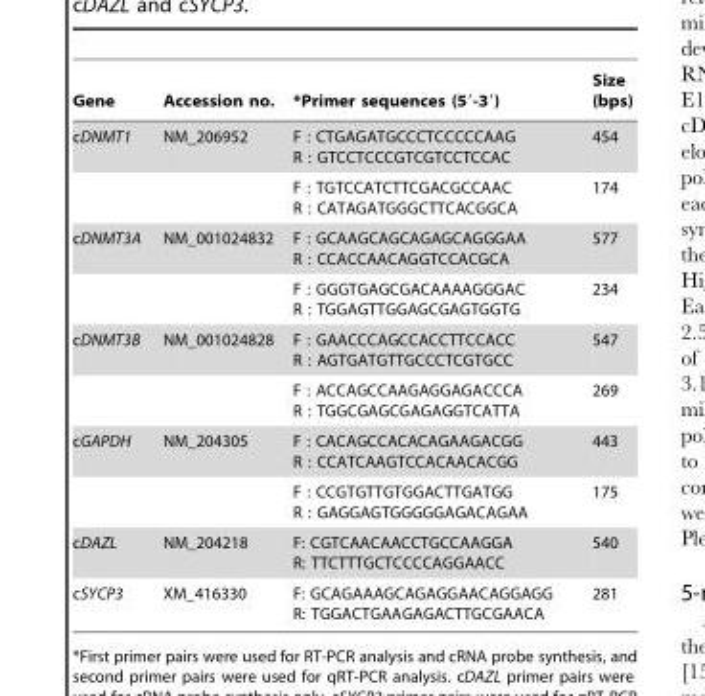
<table><thead><tr><td>Gene</td><td>Accession no.</td><td>*Primer sequences (5′-3′)</td><td>Size (bps)</td></tr></thead><tbody><tr><td rowspan="2">cDNMT1</td><td>NM_206952</td><td>F : CTGAGATGCCCTCCCCCAAG R : GTCCTCCCGTCGTCCTCCAC</td><td>454</td></tr><tr><td></td><td>F : TGTCCATCTTCGACGCCAAC R : CATAGATGGGCTTCACGGCA</td><td>174</td></tr><tr><td rowspan="2">cDNMT3A</td><td>NM_001024832</td><td>F : GCAAGCAGCAGAGCAGGGAA R : CCACCAACAGGTCCACGCA</td><td>577</td></tr><tr><td></td><td>F : GGGTGAGCGACAAAAGGGAC R : TGGAGTTGGAGCGAGTGGTG</td><td>234</td></tr><tr><td rowspan="2">cDNMT3B</td><td>NM_001024828</td><td>F : GAACCCAGCCACCTTCCACC R : AGTGATGTTGCCCTCGTGCC</td><td>547</td></tr><tr><td></td><td>F : ACCAGCCAAGAGGAGACCCA R : TGGCGAGCGAGAGGTCATTA</td><td>269</td></tr><tr><td rowspan="2">cGAPDH</td><td>NM_204305</td><td>F : CACAGCCACACAGAAGACGG R : CCATCAAGTCCACAACACGG</td><td>443</td></tr><tr><td></td><td>F : CCGTGTTGTGGACTTGATGG R : GAGGAGTGGGGGAGACAGAA</td><td>175</td></tr><tr><td>cDAZL</td><td>NM_204218</td><td>F: CGTCAACAACCTGCCAAGGA R: TTCTTTGCTCCCCAGGAACC</td><td>540</td></tr><tr><td>cSYCP3</td><td>XM_416330</td><td>F: GCAGAAAGCAGAGGAACAGGAGG R: TGGACTGAAGAGACTTGCGAACA</td><td>281</td></tr></tbody></table>